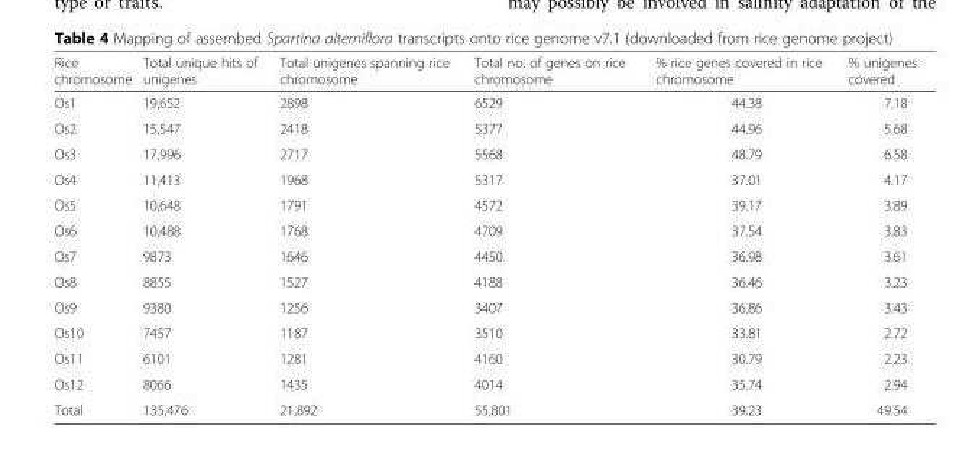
<table><thead><tr><td>Rice chromosome</td><td>Total unique hits of unigenes</td><td>Total unigenes spanning rice chromosome</td><td>Total no. of genes on rice chromosome</td><td>% rice genes covered in rice chromosome</td><td>% unigenes covered</td></tr></thead><tbody><tr><td>Os1</td><td>19,652</td><td>2898</td><td>6529</td><td>44.38</td><td>7.18</td></tr><tr><td>Os2</td><td>15,547</td><td>2418</td><td>5377</td><td>44.96</td><td>5.68</td></tr><tr><td>Os3</td><td>17,996</td><td>2717</td><td>5568</td><td>48.79</td><td>6.58</td></tr><tr><td>Os4</td><td>11,413</td><td>1968</td><td>5317</td><td>37.01</td><td>4.17</td></tr><tr><td>Os5</td><td>10,648</td><td>1791</td><td>4572</td><td>39.17</td><td>3.89</td></tr><tr><td>Os6</td><td>10,488</td><td>1768</td><td>4709</td><td>37.54</td><td>3.83</td></tr><tr><td>Os7</td><td>9873</td><td>1646</td><td>4450</td><td>36.98</td><td>3.61</td></tr><tr><td>Os8</td><td>8855</td><td>1527</td><td>4188</td><td>36.46</td><td>3.23</td></tr><tr><td>Os9</td><td>9380</td><td>1256</td><td>3407</td><td>36.86</td><td>3.43</td></tr><tr><td>Os10</td><td>7457</td><td>1187</td><td>3510</td><td>33.81</td><td>2.72</td></tr><tr><td>Os11</td><td>6101</td><td>1281</td><td>4160</td><td>30.79</td><td>2.23</td></tr><tr><td>Os12</td><td>8066</td><td>1435</td><td>4014</td><td>35.74</td><td>2.94</td></tr><tr><td>Total</td><td>135,476</td><td>21,892</td><td>55,801</td><td>39.23</td><td>49.54</td></tr></tbody></table>